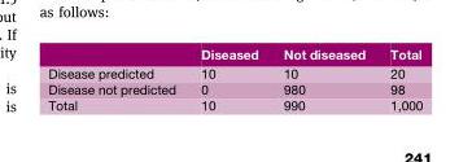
<table><thead><tr><td></td><td>Diseased</td><td>Not diseased</td><td>Total</td></tr></thead><tbody><tr><td>Disease predicted</td><td>10</td><td>10</td><td>20</td></tr><tr><td>Disease not predicted</td><td>0</td><td>980</td><td>98</td></tr><tr><td>Total</td><td>10</td><td>990</td><td>1,000</td></tr></tbody></table>